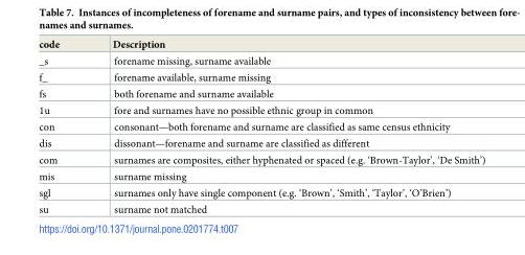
<table><thead><tr><td>code</td><td>Description</td></tr></thead><tbody><tr><td>_s</td><td>forename missing, surname available</td></tr><tr><td>f_</td><td>forename available, surname missing</td></tr><tr><td>fs</td><td>both forename and surname available</td></tr><tr><td>1u</td><td>fore and surnames have no possible ethnic group in common</td></tr><tr><td>con</td><td>consonant—both forename and surname are classified as same census ethnicity</td></tr><tr><td>dis</td><td>dissonant—forename and surname are classified as different</td></tr><tr><td>com</td><td>surnames are composites, either hyphenated or spaced (e.g. ‘Brown-Taylor’, ‘De Smith’)</td></tr><tr><td>mis</td><td>surname missing</td></tr><tr><td>sgl</td><td>surnames only have single component (e.g. ‘Brown’, ‘Smith’, ‘Taylor’, ‘O’Brien’)</td></tr><tr><td>su</td><td>surname not matched</td></tr></tbody></table>